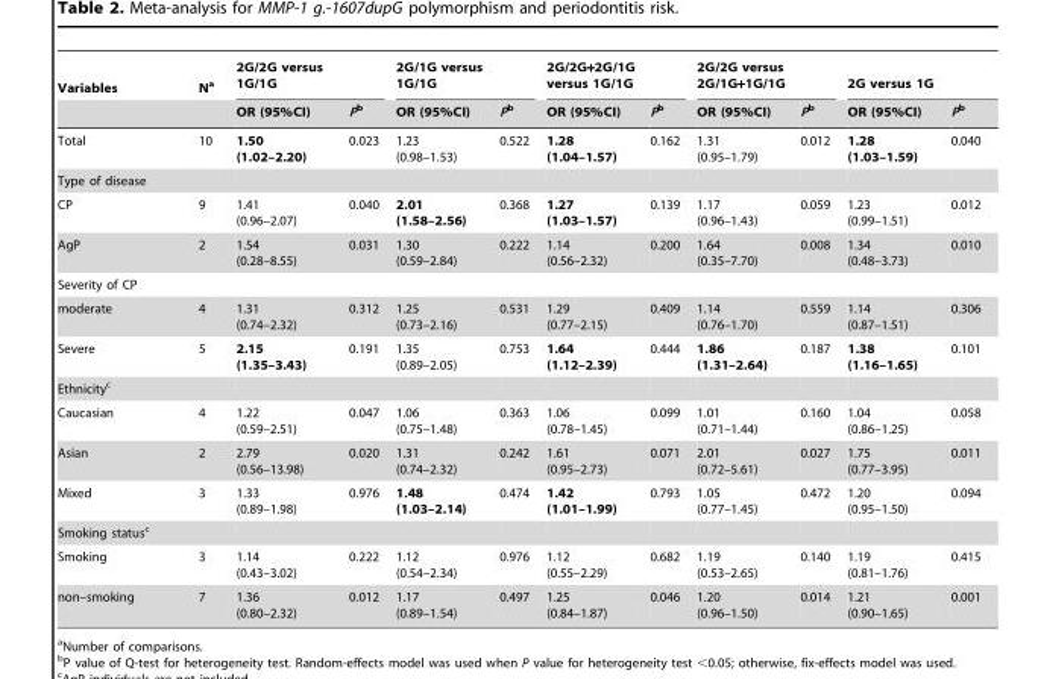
<table><thead><tr><td rowspan="2">Variables</td><td rowspan="2">N<sup>a</sup></td><td colspan="2">2G/2G versus 1G/1G</td><td colspan="2">2G/1G versus 1G/1G</td><td colspan="2">2G/2G+2G/1G versus 1G/1G</td><td colspan="2">2G/2G versus 2G/1G+1G/1G</td><td colspan="2">2G versus 1G</td></tr><tr><td>OR (95%CI)</td><td>Pb</td><td>OR (95%CI)</td><td>Pb</td><td>OR (95%CI)</td><td>Pb</td><td>OR (95%CI)</td><td>Pb</td><td>OR (95%CI)</td><td>Pb</td></tr></thead><tbody><tr><td>Total</td><td>10</td><td>1.50 (1.02–2.20)</td><td>0.023</td><td>1.23 (0.98–1.53)</td><td>0.522</td><td>1.28 (1.04–1.57)</td><td>0.162</td><td>1.31 (0.95–1.79)</td><td>0.012</td><td>1.28 (1.03–1.59)</td><td>0.040</td></tr><tr><td colspan="12">Type of disease</td></tr><tr><td>CP</td><td>9</td><td>1.41 (0.96–2.07)</td><td>0.040</td><td>2.01 (1.58–2.56)</td><td>0.368</td><td>1.27 (1.03–1.57)</td><td>0.139</td><td>1.17 (0.96–1.43)</td><td>0.059</td><td>1.23 (0.99–1.51)</td><td>0.012</td></tr><tr><td>AgP</td><td>2</td><td>1.54 (0.28–8.55)</td><td>0.031</td><td>1.30 (0.59–2.84)</td><td>0.222</td><td>1.14 (0.56–2.32)</td><td>0.200</td><td>1.64 (0.35–7.70)</td><td>0.008</td><td>1.34 (0.48–3.73)</td><td>0.010</td></tr><tr><td colspan="12">Severity of CP</td></tr><tr><td>moderate</td><td>4</td><td>1.31 (0.74–2.32)</td><td>0.312</td><td>1.25 (0.73–2.16)</td><td>0.531</td><td>1.29 (0.77–2.15)</td><td>0.409</td><td>1.14 (0.76–1.70)</td><td>0.559</td><td>1.14 (0.87–1.51)</td><td>0.306</td></tr><tr><td>Severe</td><td>5</td><td>2.15 (1.35–3.43)</td><td>0.191</td><td>1.35 (0.89–2.05)</td><td>0.753</td><td>1.64 (1.12–2.39)</td><td>0.444</td><td>1.86 (1.31–2.64)</td><td>0.187</td><td>1.38 (1.16–1.65)</td><td>0.101</td></tr><tr><td colspan="12">Ethnicity<sup>c</sup></td></tr><tr><td>Caucasian</td><td>4</td><td>1.22 (0.59–2.51)</td><td>0.047</td><td>1.06 (0.75–1.48)</td><td>0.363</td><td>1.06 (0.78–1.45)</td><td>0.099</td><td>1.01 (0.71–1.44)</td><td>0.160</td><td>1.04 (0.86–1.25)</td><td>0.058</td></tr><tr><td>Asian</td><td>2</td><td>2.79 (0.56–13.98)</td><td>0.020</td><td>1.31 (0.74–2.32)</td><td>0.242</td><td>1.61 (0.95–2.73)</td><td>0.071</td><td>2.01 (0.72–5.61)</td><td>0.027</td><td>1.75 (0.77–3.95)</td><td>0.011</td></tr><tr><td>Mixed</td><td>3</td><td>1.33 (0.89–1.98)</td><td>0.976</td><td>1.48 (1.03–2.14)</td><td>0.474</td><td>1.42 (1.01–1.99)</td><td>0.793</td><td>1.05 (0.77–1.45)</td><td>0.472</td><td>1.20 (0.95–1.50)</td><td>0.094</td></tr><tr><td colspan="12">Smoking status<sup>c</sup></td></tr><tr><td>Smoking</td><td>3</td><td>1.14 (0.43–3.02)</td><td>0.222</td><td>1.12 (0.54–2.34)</td><td>0.976</td><td>1.12 (0.55–2.29)</td><td>0.682</td><td>1.19 (0.53–2.65)</td><td>0.140</td><td>1.19 (0.81–1.76)</td><td>0.415</td></tr><tr><td>non–smoking</td><td>7</td><td>1.36 (0.80–2.32)</td><td>0.012</td><td>1.17 (0.89–1.54)</td><td>0.497</td><td>1.25 (0.84–1.87)</td><td>0.046</td><td>1.20 (0.96–1.50)</td><td>0.014</td><td>1.21 (0.90–1.65)</td><td>0.001</td></tr></tbody></table>